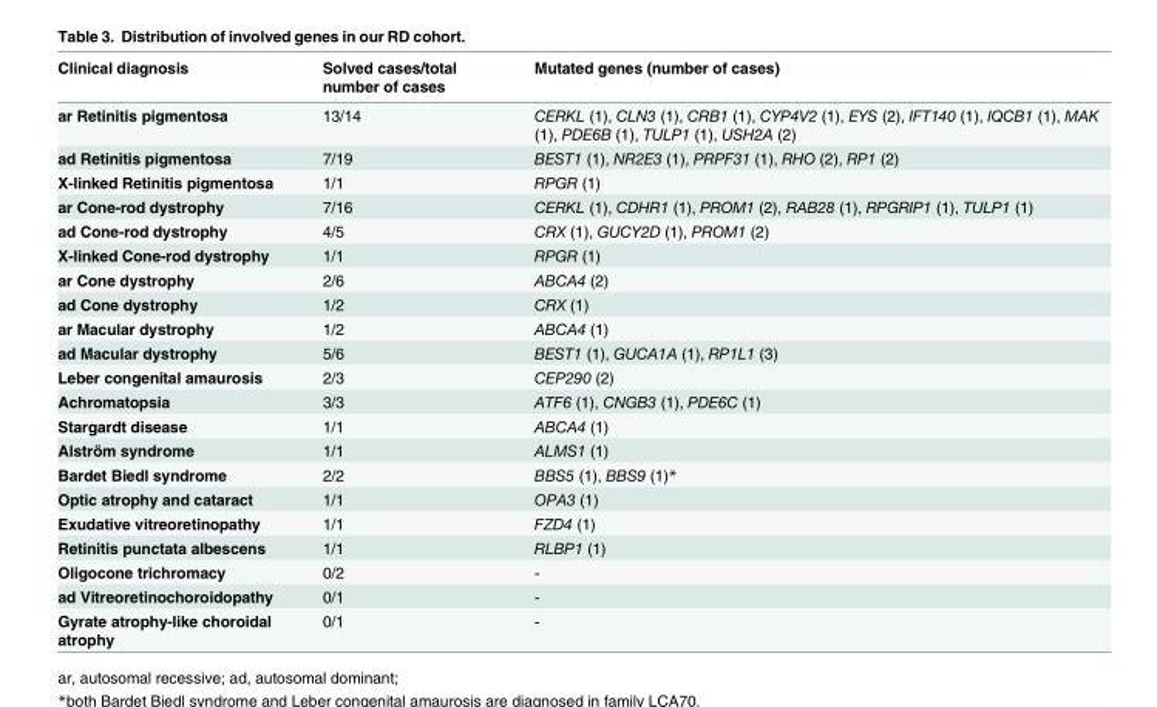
<table><thead><tr><td>Clinical diagnosis</td><td>Solved cases/total number of cases</td><td>Mutated genes (number of cases)</td></tr></thead><tbody><tr><td>ar Retinitis pigmentosa</td><td>13/14</td><td>CERKL (1), CLN3 (1), CRB1 (1), CYP4V2 (1), EYS (2), IFT140 (1), IQCB1 (1), MAK (1), PDE6B (1), TULP1 (1), USH2A (2)</td></tr><tr><td>ad Retinitis pigmentosa</td><td>7/19</td><td>BEST1 (1), NR2E3 (1), PRPF31 (1), RHO (2), RP1 (2)</td></tr><tr><td>X-linked Retinitis pigmentosa</td><td>1/1</td><td>RPGR (1)</td></tr><tr><td>ar Cone-rod dystrophy</td><td>7/16</td><td>CERKL (1), CDHR1 (1), PROM1 (2), RAB28 (1), RPGRIP1 (1), TULP1 (1)</td></tr><tr><td>ad Cone-rod dystrophy</td><td>4/5</td><td>CRX (1), GUCY2D (1), PROM1 (2)</td></tr><tr><td>X-linked Cone-rod dystrophy</td><td>1/1</td><td>RPGR (1)</td></tr><tr><td>ar Cone dystrophy</td><td>2/6</td><td>ABCA4 (2)</td></tr><tr><td>ad Cone dystrophy</td><td>1/2</td><td>CRX (1)</td></tr><tr><td>ar Macular dystrophy</td><td>1/2</td><td>ABCA4 (1)</td></tr><tr><td>ad Macular dystrophy</td><td>5/6</td><td>BEST1 (1), GUCA1A (1), RP1L1 (3)</td></tr><tr><td>Leber congenital amaurosis</td><td>2/3</td><td>CEP290 (2)</td></tr><tr><td>Achromatopsia</td><td>3/3</td><td>ATF6 (1), CNGB3 (1), PDE6C (1)</td></tr><tr><td>Stargardt disease</td><td>1/1</td><td>ABCA4 (1)</td></tr><tr><td>Alström syndrome</td><td>1/1</td><td>ALMS1 (1)</td></tr><tr><td>Bardet Biedl syndrome</td><td>2/2</td><td>BBS5 (1), BBS9 (1)*</td></tr><tr><td>Optic atrophy and cataract</td><td>1/1</td><td>OPA3 (1)</td></tr><tr><td>Exudative vitreoretinopathy</td><td>1/1</td><td>FZD4 (1)</td></tr><tr><td>Retinitis punctata albescens</td><td>1/1</td><td>RLBP1 (1)</td></tr><tr><td>Oligocone trichromacy</td><td>0/2</td><td>-</td></tr><tr><td>ad Vitreoretinochoroidopathy</td><td>0/1</td><td>-</td></tr><tr><td>Gyrate atrophy-like choroidal atrophy</td><td>0/1</td><td>-</td></tr></tbody></table>